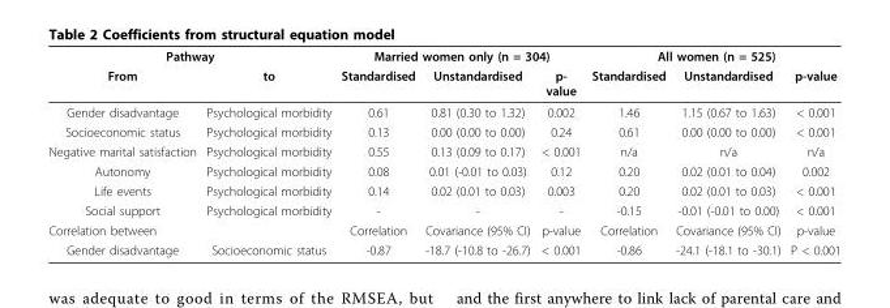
<table><thead><tr><td colspan="2">Pathway</td><td colspan="3">Married women only (n = 304)</td><td colspan="3">All women (n = 525)</td></tr><tr><td>From</td><td>to</td><td>Standardised</td><td>Unstandardised</td><td>p- value</td><td>Standardised</td><td>Unstandardised</td><td>p-value</td></tr></thead><tbody><tr><td>Gender disadvantage</td><td>Psychological morbidity</td><td>0.61</td><td>0.81 (0.30 to 1.32)</td><td>0.002</td><td>1.46</td><td>1.15 (0.67 to 1.63)</td><td>&lt; 0.001</td></tr><tr><td>Socioeconomic status</td><td>Psychological morbidity</td><td>0.13</td><td>0.00 (0.00 to 0.00)</td><td>0.24</td><td>0.61</td><td>0.00 (0.00 to 0.00)</td><td>&lt; 0.001</td></tr><tr><td>Negative marital satisfaction</td><td>Psychological morbidity</td><td>0.55</td><td>0.13 (0.09 to 0.17)</td><td>&lt; 0.001</td><td>n/a</td><td>n/a</td><td>n/a</td></tr><tr><td>Autonomy</td><td>Psychological morbidity</td><td>0.08</td><td>0.01 (-0.01 to 0.03)</td><td>0.12</td><td>0.20</td><td>0.02 (0.01 to 0.04)</td><td>0.002</td></tr><tr><td>Life events</td><td>Psychological morbidity</td><td>0.14</td><td>0.02 (0.01 to 0.03)</td><td>0.003</td><td>0.20</td><td>0.02 (0.01 to 0.03)</td><td>&lt; 0.001</td></tr><tr><td>Social support</td><td>Psychological morbidity</td><td>-</td><td>-</td><td>-</td><td>-0.15</td><td>-0.01 (-0.01 to 0.00)</td><td>&lt; 0.001</td></tr><tr><td colspan="2">Correlation between</td><td>Correlation</td><td>Covariance (95% CI)</td><td>p-value</td><td>Correlation</td><td>Covariance (95% CI)</td><td>p-value</td></tr><tr><td>Gender disadvantage</td><td>Socioeconomic status</td><td>-0.87</td><td>-18.7 (-10.8 to -26.7)</td><td>&lt; 0.001</td><td>-0.86</td><td>-24.1 (-18.1 to -30.1)</td><td>P &lt; 0.001</td></tr></tbody></table>